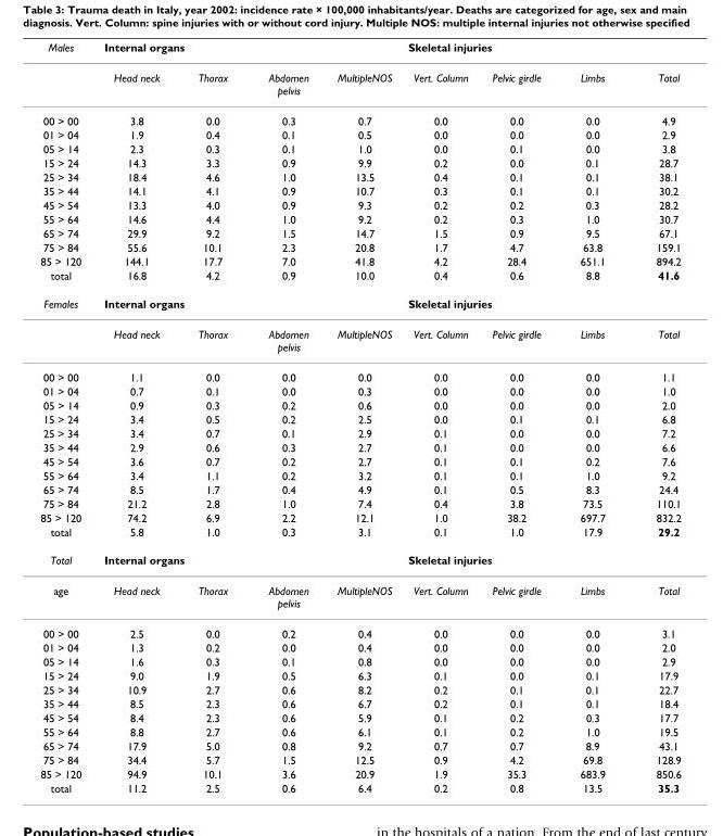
<table><thead><tr><td rowspan="2">Males</td><td colspan="4">Internal organs</td><td colspan="4">Skeletal injuries</td></tr><tr><td>Head neck</td><td>Thorax</td><td>Abdomen pelvis</td><td>MultipleNOS</td><td>Vert. Column</td><td>Pelvic girdle</td><td>Limbs</td><td>Total</td></tr></thead><tbody><tr><td>00 &gt; 00</td><td>3.8</td><td>0.0</td><td>0.3</td><td>0.7</td><td>0.0</td><td>0.0</td><td>0.0</td><td>4.9</td></tr><tr><td>01 &gt; 04</td><td>1.9</td><td>0.4</td><td>0.1</td><td>0.5</td><td>0.0</td><td>0.0</td><td>0.0</td><td>2.9</td></tr><tr><td>05 &gt; 14</td><td>2.3</td><td>0.3</td><td>0.1</td><td>1.0</td><td>0.0</td><td>0.1</td><td>0.0</td><td>3.8</td></tr><tr><td>15 &gt; 24</td><td>14.3</td><td>3.3</td><td>0.9</td><td>9.9</td><td>0.2</td><td>0.0</td><td>0.1</td><td>28.7</td></tr><tr><td>25 &gt; 34</td><td>18.4</td><td>4.6</td><td>1.0</td><td>13.5</td><td>0.4</td><td>0.1</td><td>0.1</td><td>38.1</td></tr><tr><td>35 &gt; 44</td><td>14.1</td><td>4.1</td><td>0.9</td><td>10.7</td><td>0.3</td><td>0.1</td><td>0.1</td><td>30.2</td></tr><tr><td>45 &gt; 54</td><td>13.3</td><td>4.0</td><td>0.9</td><td>9.3</td><td>0.2</td><td>0.2</td><td>0.3</td><td>28.2</td></tr><tr><td>55 &gt; 64</td><td>14.6</td><td>4.4</td><td>1.0</td><td>9.2</td><td>0.2</td><td>0.3</td><td>1.0</td><td>30.7</td></tr><tr><td>65 &gt; 74</td><td>29.9</td><td>9.2</td><td>1.5</td><td>14.7</td><td>1.5</td><td>0.9</td><td>9.5</td><td>67.1</td></tr><tr><td>75 &gt; 84</td><td>55.6</td><td>10.1</td><td>2.3</td><td>20.8</td><td>1.7</td><td>4.7</td><td>63.8</td><td>159.1</td></tr><tr><td>85 &gt; 120</td><td>144.1</td><td>17.7</td><td>7.0</td><td>41.8</td><td>4.2</td><td>28.4</td><td>651.1</td><td>894.2</td></tr><tr><td>total</td><td>16.8</td><td>4.2</td><td>0.9</td><td>10.0</td><td>0.4</td><td>0.6</td><td>8.8</td><td>41.6</td></tr><tr><td rowspan="2">Females</td><td colspan="4">Internal organs</td><td colspan="4">Skeletal injuries</td></tr><tr><td>Head neck</td><td>Thorax</td><td>Abdomen pelvis</td><td>MultipleNOS</td><td>Vert. Column</td><td>Pelvic girdle</td><td>Limbs</td><td>Total</td></tr><tr><td>00 &gt; 00</td><td>1.1</td><td>0.0</td><td>0.0</td><td>0.0</td><td>0.0</td><td>0.0</td><td>0.0</td><td>1.1</td></tr><tr><td>01 &gt; 04</td><td>0.7</td><td>0.1</td><td>0.0</td><td>0.3</td><td>0.0</td><td>0.0</td><td>0.0</td><td>1.0</td></tr><tr><td>05 &gt; 14</td><td>0.9</td><td>0.3</td><td>0.2</td><td>0.6</td><td>0.0</td><td>0.0</td><td>0.0</td><td>2.0</td></tr><tr><td>15 &gt; 24</td><td>3.4</td><td>0.5</td><td>0.2</td><td>2.5</td><td>0.0</td><td>0.1</td><td>0.1</td><td>6.8</td></tr><tr><td>25 &gt; 34</td><td>3.4</td><td>0.7</td><td>0.1</td><td>2.9</td><td>0.1</td><td>0.0</td><td>0.0</td><td>7.2</td></tr><tr><td>35 &gt; 44</td><td>2.9</td><td>0.6</td><td>0.3</td><td>2.7</td><td>0.1</td><td>0.0</td><td>0.0</td><td>6.6</td></tr><tr><td>45 &gt; 54</td><td>3.6</td><td>0.7</td><td>0.2</td><td>2.7</td><td>0.1</td><td>0.1</td><td>0.2</td><td>7.6</td></tr><tr><td>55 &gt; 64</td><td>3.4</td><td>1.1</td><td>0.2</td><td>3.2</td><td>0.1</td><td>0.1</td><td>1.0</td><td>9.2</td></tr><tr><td>65 &gt; 74</td><td>8.5</td><td>1.7</td><td>0.4</td><td>4.9</td><td>0.1</td><td>0.5</td><td>8.3</td><td>24.4</td></tr><tr><td>75 &gt; 84</td><td>21.2</td><td>2.8</td><td>1.0</td><td>7.4</td><td>0.4</td><td>3.8</td><td>73.5</td><td>110.1</td></tr><tr><td>85 &gt; 120</td><td>74.2</td><td>6.9</td><td>2.2</td><td>12.1</td><td>1.0</td><td>38.2</td><td>697.7</td><td>832.2</td></tr><tr><td>total</td><td>5.8</td><td>1.0</td><td>0.3</td><td>3.1</td><td>0.1</td><td>1.0</td><td>17.9</td><td>29.2</td></tr><tr><td>Total</td><td colspan="4">Internal organs</td><td colspan="4">Skeletal injuries</td></tr><tr><td>age</td><td>Head neck</td><td>Thorax</td><td>Abdomen pelvis</td><td>MultipleNOS</td><td>Vert. Column</td><td>Pelvic girdle</td><td>Limbs</td><td>Total</td></tr><tr><td>00 &gt; 00</td><td>2.5</td><td>0.0</td><td>0.2</td><td>0.4</td><td>0.0</td><td>0.0</td><td>0.0</td><td>3.1</td></tr><tr><td>01 &gt; 04</td><td>1.3</td><td>0.2</td><td>0.0</td><td>0.4</td><td>0.0</td><td>0.0</td><td>0.0</td><td>2.0</td></tr><tr><td>05 &gt; 14</td><td>1.6</td><td>0.3</td><td>0.1</td><td>0.8</td><td>0.0</td><td>0.0</td><td>0.0</td><td>2.9</td></tr><tr><td>15 &gt; 24</td><td>9.0</td><td>1.9</td><td>0.5</td><td>6.3</td><td>0.1</td><td>0.0</td><td>0.1</td><td>17.9</td></tr><tr><td>25 &gt; 34</td><td>10.9</td><td>2.7</td><td>0.6</td><td>8.2</td><td>0.2</td><td>0.1</td><td>0.1</td><td>22.7</td></tr><tr><td>35 &gt; 44</td><td>8.5</td><td>2.3</td><td>0.6</td><td>6.7</td><td>0.2</td><td>0.1</td><td>0.1</td><td>18.4</td></tr><tr><td>45 &gt; 54</td><td>8.4</td><td>2.3</td><td>0.6</td><td>5.9</td><td>0.1</td><td>0.2</td><td>0.3</td><td>17.7</td></tr><tr><td>55 &gt; 64</td><td>8.8</td><td>2.7</td><td>0.6</td><td>6.1</td><td>0.1</td><td>0.2</td><td>1.0</td><td>19.5</td></tr><tr><td>65 &gt; 74</td><td>17.9</td><td>5.0</td><td>0.8</td><td>9.2</td><td>0.7</td><td>0.7</td><td>8.9</td><td>43.1</td></tr><tr><td>75 &gt; 84</td><td>34.4</td><td>5.7</td><td>1.5</td><td>12.5</td><td>0.9</td><td>4.2</td><td>69.8</td><td>128.9</td></tr><tr><td>85 &gt; 120</td><td>94.9</td><td>10.1</td><td>3.6</td><td>20.9</td><td>1.9</td><td>35.3</td><td>683.9</td><td>850.6</td></tr><tr><td>total</td><td>11.2</td><td>2.5</td><td>0.6</td><td>6.4</td><td>0.2</td><td>0.8</td><td>13.5</td><td>35.3</td></tr></tbody></table>